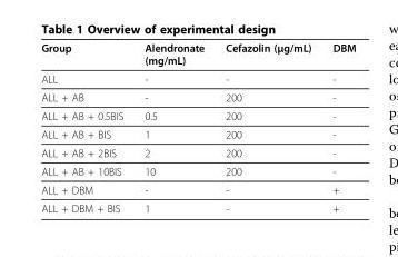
<table><thead><tr><td>Group</td><td>Alendronate (mg/mL)</td><td>Cefazolin (μg/mL)</td><td>DBM</td></tr></thead><tbody><tr><td>ALL</td><td>-</td><td>-</td><td>-</td></tr><tr><td>ALL + AB</td><td>-</td><td>200</td><td>-</td></tr><tr><td>ALL + AB + 0.5BIS</td><td>0.5</td><td>200</td><td>-</td></tr><tr><td>ALL + AB + BIS</td><td>1</td><td>200</td><td>-</td></tr><tr><td>ALL + AB + 2BIS</td><td>2</td><td>200</td><td>-</td></tr><tr><td>ALL + AB + 10BIS</td><td>10</td><td>200</td><td>-</td></tr><tr><td>ALL + DBM</td><td>-</td><td>-</td><td>+</td></tr><tr><td>ALL + DBM + BIS</td><td>1</td><td>-</td><td>+</td></tr></tbody></table>